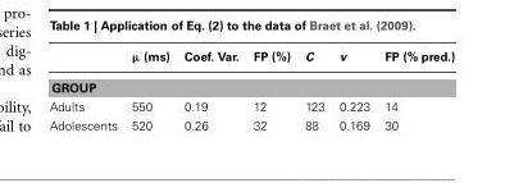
<table><thead><tr><td></td><td>μ (ms)</td><td>Coef. Var.</td><td>FP (%)</td><td>C</td><td>v</td><td>FP (% pred.)</td></tr></thead><tbody><tr><td colspan="7">GROUP</td></tr><tr><td>Adults</td><td>550</td><td>0.19</td><td>12</td><td>123</td><td>0.223</td><td>14</td></tr><tr><td>Adolescents</td><td>520</td><td>0.26</td><td>32</td><td>88</td><td>0.169</td><td>30</td></tr></tbody></table>